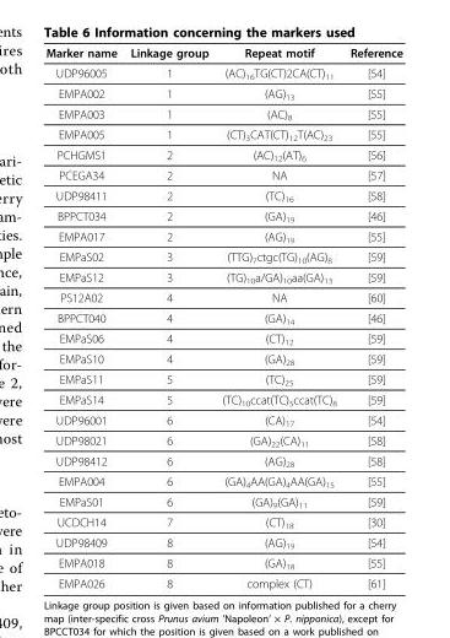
<table><thead><tr><td>Marker name</td><td>Linkage group</td><td>Repeat motif</td><td>Reference</td></tr></thead><tbody><tr><td>UDP96005</td><td>1</td><td>(AC)<sub>16</sub>TG(CT)2CA(CT)<sub>11</sub></td><td>[54]</td></tr><tr><td>EMPA002</td><td>1</td><td>(AG)<sub>13</sub></td><td>[55]</td></tr><tr><td>EMPA003</td><td>1</td><td>(AC)<sub>8</sub></td><td>[55]</td></tr><tr><td>EMPA005</td><td>1</td><td>(CT)<sub>3</sub>CAT(CT)<sub>12</sub>T(AC)<sub>23</sub></td><td>[55]</td></tr><tr><td>PCHGMS1</td><td>2</td><td>(AC)<sub>12</sub>(AT)<sub>6</sub></td><td>[56]</td></tr><tr><td>PCEGA34</td><td>2</td><td>NA</td><td>[57]</td></tr><tr><td>UDP98411</td><td>2</td><td>(TC)<sub>16</sub></td><td>[58]</td></tr><tr><td>BPPCT034</td><td>2</td><td>(GA)<sub>19</sub></td><td>[46]</td></tr><tr><td>EMPA017</td><td>2</td><td>(AG)<sub>19</sub></td><td>[55]</td></tr><tr><td>EMPaS02</td><td>3</td><td>(TTG)<sub>7</sub>ctgc(TG)<sub>10</sub>(AG)<sub>8</sub></td><td>[59]</td></tr><tr><td>EMPaS12</td><td>3</td><td>(TG)<sub>10</sub>a/GA)<sub>10</sub>aa(GA)<sub>13</sub></td><td>[59]</td></tr><tr><td>PS12A02</td><td>4</td><td>NA</td><td>[60]</td></tr><tr><td>BPPCT040</td><td>4</td><td>(GA)<sub>14</sub></td><td>[46]</td></tr><tr><td>EMPaS06</td><td>4</td><td>(CT)<sub>12</sub></td><td>[59]</td></tr><tr><td>EMPaS10</td><td>4</td><td>(GA)<sub>28</sub></td><td>[59]</td></tr><tr><td>EMPaS11</td><td>5</td><td>(TC)<sub>25</sub></td><td>[59]</td></tr><tr><td>EMPaS14</td><td>5</td><td>(TC)<sub>10</sub>ccat(TC)<sub>5</sub>ccat(TC)<sub>8</sub></td><td>[59]</td></tr><tr><td>UDP96001</td><td>6</td><td>(CA)<sub>17</sub></td><td>[54]</td></tr><tr><td>UDP98021</td><td>6</td><td>(GA)<sub>22</sub>(CA)<sub>11</sub></td><td>[58]</td></tr><tr><td>UDP98412</td><td>6</td><td>(AG)<sub>28</sub></td><td>[58]</td></tr><tr><td>EMPA004</td><td>6</td><td>(GA)<sub>4</sub>AA(GA)<sub>4</sub>AA(GA)<sub>15</sub></td><td>[55]</td></tr><tr><td>EMPaS01</td><td>6</td><td>(GA)<sub>9</sub>(GA)<sub>11</sub></td><td>[59]</td></tr><tr><td>UCDCH14</td><td>7</td><td>(CT)<sub>18</sub></td><td>[30]</td></tr><tr><td>UDP98409</td><td>8</td><td>(AG)<sub>19</sub></td><td>[54]</td></tr><tr><td>EMPA018</td><td>8</td><td>(GA)<sub>18</sub></td><td>[55]</td></tr><tr><td>EMPA026</td><td>8</td><td>complex (CT)</td><td>[61]</td></tr></tbody></table>